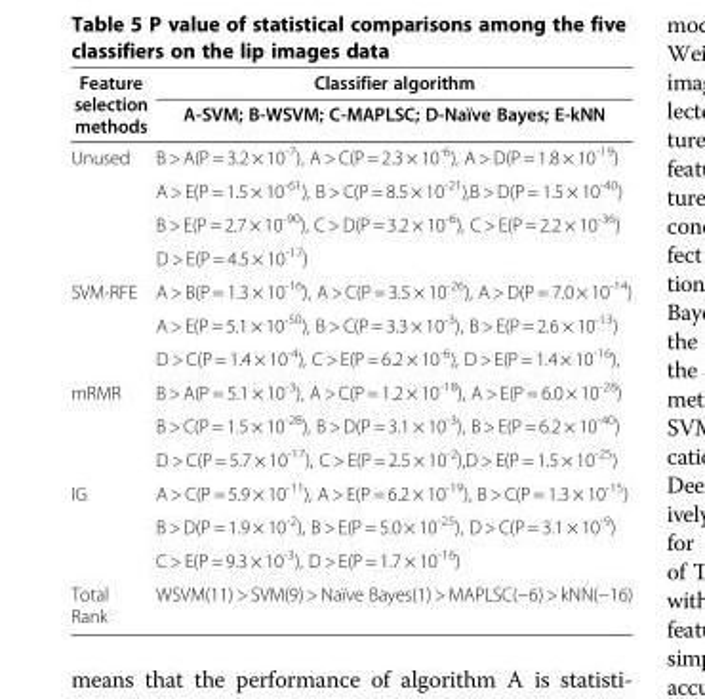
<table><thead><tr><td rowspan="2">Feature selection methods</td><td rowspan="2">Classifier algorithm A-SVM; B-WSVM; C-MAPLSC; D-Naïve Bayes; E-kNN</td></tr><tr></tr></thead><tbody><tr><td rowspan="4">Unused</td><td>B &gt; A(P = 3.2 × 10<sup>-7</sup>), A &gt; C(P = 2.3 × 10<sup>-6</sup>), A &gt; D(P = 1.8 × 10<sup>-19</sup>)</td></tr><tr><td>A &gt; E(P = 1.5 × 10<sup>-61</sup>), B &gt; C(P = 8.5 × 10<sup>-21</sup>),B &gt; D(P = 1.5 × 10<sup>-40</sup>)</td></tr><tr><td>B &gt; E(P = 2.7 × 10<sup>-90</sup>), C &gt; D(P = 3.2 × 10<sup>-6</sup>), C &gt; E(P = 2.2 × 10<sup>-36</sup>)</td></tr><tr><td>D &gt; E(P = 4.5 × 10<sup>-17</sup>)</td></tr><tr><td rowspan="3">SVM-RFE</td><td>A &gt; B(P = 1.3 × 10<sup>-16</sup>), A &gt; C(P = 3.5 × 10<sup>-26</sup>), A &gt; D(P = 7.0 × 10<sup>-14</sup>)</td></tr><tr><td>A &gt; E(P = 5.1 × 10<sup>-50</sup>), B &gt; C(P = 3.3 × 10<sup>-3</sup>), B &gt; E(P = 2.6 × 10<sup>-13</sup>)</td></tr><tr><td>D &gt; C(P = 1.4 × 10<sup>-4</sup>), C &gt; E(P = 6.2 × 10<sup>-6</sup>), D &gt; E(P = 1.4 × 10<sup>-16</sup>),</td></tr><tr><td rowspan="3">mRMR</td><td>B &gt; A(P = 5.1 × 10<sup>-3</sup>), A &gt; C(P = 1.2 × 10<sup>-18</sup>), A &gt; E(P = 6.0 × 10<sup>-28</sup>)</td></tr><tr><td>B &gt; C(P = 1.5 × 10<sup>-28</sup>), B &gt; D(P = 3.1 × 10<sup>-3</sup>), B &gt; E(P = 6.2 × 10<sup>-40</sup>)</td></tr><tr><td>D &gt; C(P = 5.7 × 10<sup>-17</sup>), C &gt; E(P = 2.5 × 10<sup>-2</sup>),D &gt; E(P = 1.5 × 10<sup>-25</sup>)</td></tr><tr><td rowspan="3">IG</td><td>A &gt; C(P = 5.9 × 10<sup>-11</sup>), A &gt; E(P = 6.2 × 10<sup>-19</sup>), B &gt; C(P = 1.3 × 10<sup>-15</sup>)</td></tr><tr><td>B &gt; D(P = 1.9 × 10<sup>-2</sup>), B &gt; E(P = 5.0 × 10<sup>-25</sup>), D &gt; C(P = 3.1 × 10<sup>-9</sup>)</td></tr><tr><td>C &gt; E(P = 9.3 × 10<sup>-3</sup>), D &gt; E(P = 1.7 × 10<sup>-16</sup>)</td></tr><tr><td>Total Rank</td><td>WSVM(11) &gt; SVM(9) &gt; Naïve Bayes(1) &gt; MAPLSC(−6) &gt; kNN(−16)</td></tr></tbody></table>